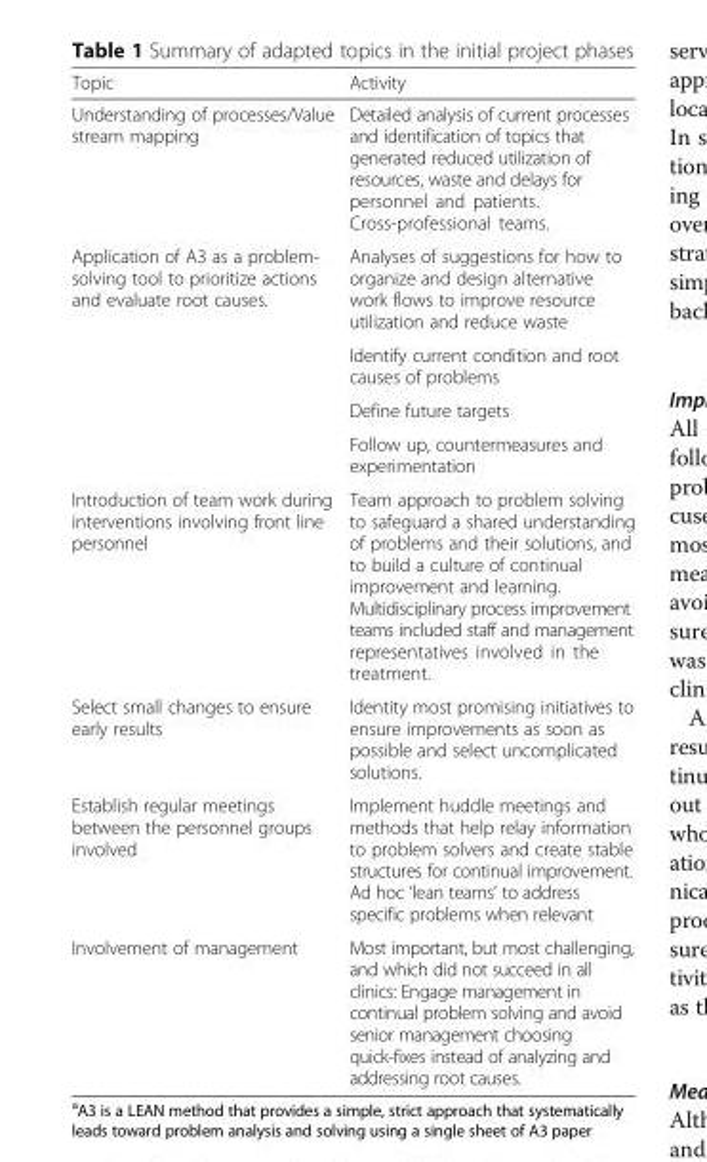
<table><thead><tr><td>Topic</td><td>Activity</td></tr></thead><tbody><tr><td>Understanding of processes/Value stream mapping</td><td>Detailed analysis of current processes and identification of topics that generated reduced utilization of resources, waste and delays for personnel and patients. Cross-professional teams.</td></tr><tr><td rowspan="4">Application of A3 as a problem- solving tool to prioritize actions and evaluate root causes.</td><td>Analyses of suggestions for how to organize and design alternative work flows to improve resource utilization and reduce waste</td></tr><tr><td>Identify current condition and root causes of problems</td></tr><tr><td>Define future targets</td></tr><tr><td>Follow up, countermeasures and experimentation</td></tr><tr><td>Introduction of team work during interventions involving front line personnel</td><td>Team approach to problem solving to safeguard a shared understanding of problems and their solutions, and to build a culture of continual improvement and learning. Multidisciplinary process improvement teams included staff and management representatives involved in the treatment.</td></tr><tr><td>Select small changes to ensure early results</td><td>Identity most promising initiatives to ensure improvements as soon as possible and select uncomplicated solutions.</td></tr><tr><td>Establish regular meetings between the personnel groups involved</td><td>Implement huddle meetings and methods that help relay information to problem solvers and create stable structures for continual improvement. Ad hoc ‘lean teams’ to address specific problems when relevant</td></tr><tr><td>Involvement of management</td><td>Most important, but most challenging, and which did not succeed in all clinics: Engage management in continual problem solving and avoid senior management choosing quick-fixes instead of analyzing and addressing root causes.</td></tr></tbody></table>